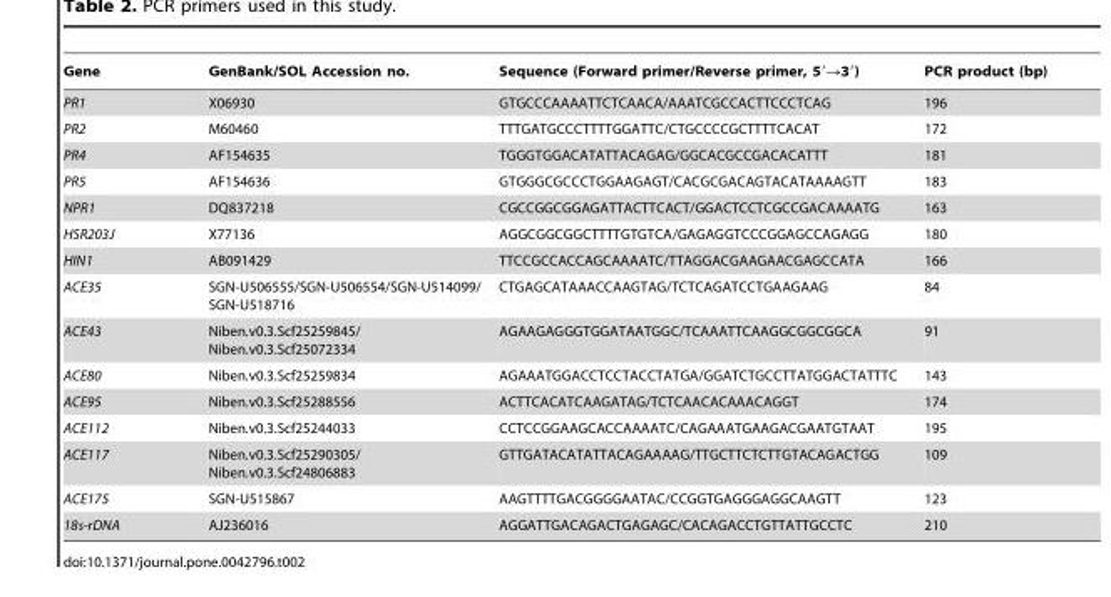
<table><thead><tr><td>Gene</td><td>GenBank/SOL Accession no.</td><td>Sequence (Forward primer/Reverse primer, 5′→3′)</td><td>PCR product (bp)</td></tr></thead><tbody><tr><td>PR1</td><td>X06930</td><td>GTGCCCAAAATTCTCAACA/AAATCGCCACTTCCCTCAG</td><td>196</td></tr><tr><td>PR2</td><td>M60460</td><td>TTTGATGCCCTTTTGGATTC/CTGCCCCGCTTTTCACAT</td><td>172</td></tr><tr><td>PR4</td><td>AF154635</td><td>TGGGTGGACATATTACAGAG/GGCACGCCGACACATTT</td><td>181</td></tr><tr><td>PR5</td><td>AF154636</td><td>GTGGGCGCCCTGGAAGAGT/CACGCGACAGTACATAAAAGTT</td><td>183</td></tr><tr><td>NPR1</td><td>DQ837218</td><td>CGCCGGCGGAGATTACTTCACT/GGACTCCTCGCCGACAAAATG</td><td>163</td></tr><tr><td>HSR203J</td><td>X77136</td><td>AGGCGGCGGCTTTTGTGTCA/GAGAGGTCCCGGAGCCAGAGG</td><td>180</td></tr><tr><td>HIN1</td><td>AB091429</td><td>TTCCGCCACCAGCAAAATC/TTAGGACGAAGAACGAGCCATA</td><td>166</td></tr><tr><td>ACE35</td><td>SGN-U506555/SGN-U506554/SGN-U514099/ SGN-U518716</td><td>CTGAGCATAAACCAAGTAG/TCTCAGATCCTGAAGAAG</td><td>84</td></tr><tr><td>ACE43</td><td>Niben.v0.3.Scf25259845/ Niben.v0.3.Scf25072334</td><td>AGAAGAGGGTGGATAATGGC/TCAAATTCAAGGCGGCGGCA</td><td>91</td></tr><tr><td>ACE80</td><td>Niben.v0.3.Scf25259834</td><td>AGAAATGGACCTCCTACCTATGA/GGATCTGCCTTATGGACTATTTC</td><td>143</td></tr><tr><td>ACE95</td><td>Niben.v0.3.Scf25288556</td><td>ACTTCACATCAAGATAG/TCTCAACACAAACAGGT</td><td>174</td></tr><tr><td>ACE112</td><td>Niben.v0.3.Scf25244033</td><td>CCTCCGGAAGCACCAAAATC/CAGAAATGAAGACGAATGTAAT</td><td>195</td></tr><tr><td>ACE117</td><td>Niben.v0.3.Scf25290305/ Niben.v0.3.Scf24806883</td><td>GTTGATACATATTACAGAAAAG/TTGCTTCTCTTGTACAGACTGG</td><td>109</td></tr><tr><td>ACE175</td><td>SGN-U515867</td><td>AAGTTTTGACGGGGAATAC/CCGGTGAGGGAGGCAAGTT</td><td>123</td></tr><tr><td>18s-rDNA</td><td>AJ236016</td><td>AGGATTGACAGACTGAGAGC/CACAGACCTGTTATTGCCTC</td><td>210</td></tr></tbody></table>